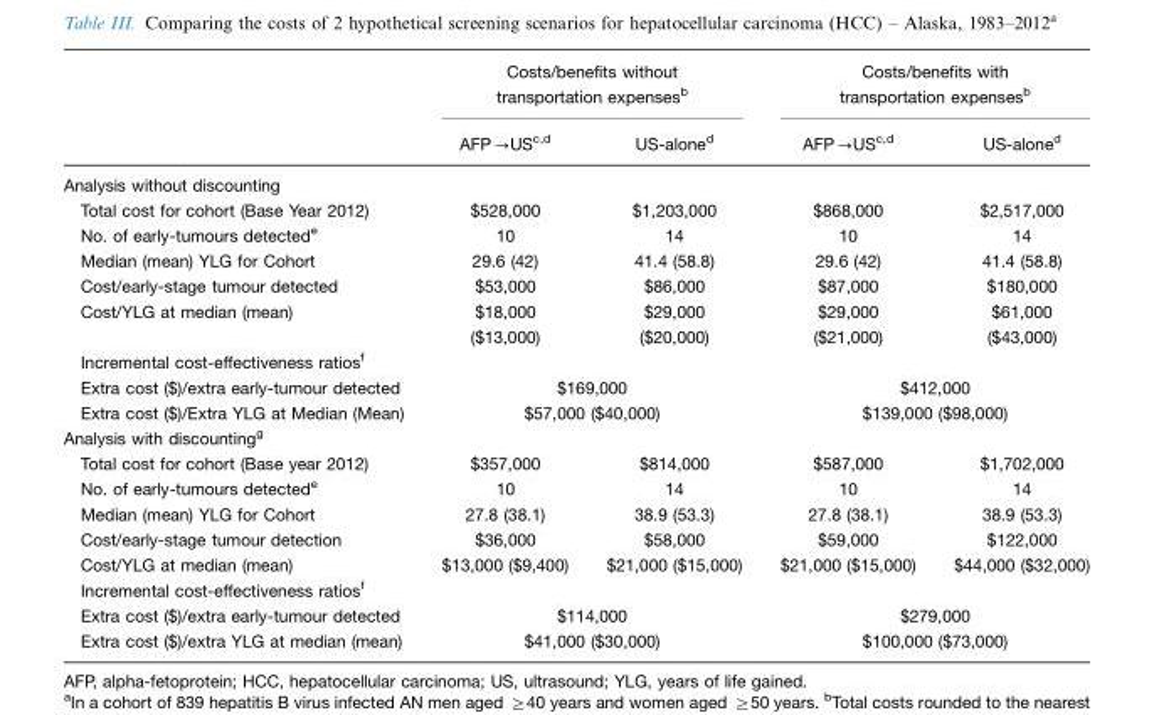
<table><thead><tr><td rowspan="2"></td><td colspan="2">Costs/benefits without transportation expenses<sup>b</sup></td><td colspan="2">Costs/benefits with transportation expenses<sup>b</sup></td></tr><tr><td>AFP→US<sup>c</sup>,<sup>d</sup></td><td>US-alone<sup>d</sup></td><td>AFP→US<sup>c</sup>,<sup>d</sup></td><td>US-alone<sup>d</sup></td></tr></thead><tbody><tr><td colspan="5">Analysis without discounting</td></tr><tr><td>Total cost for cohort (Base Year 2012)</td><td>$528,000</td><td>$1,203,000</td><td>$868,000</td><td>$2,517,000</td></tr><tr><td>No. of early-tumours detected<sup>e</sup></td><td>10</td><td>14</td><td>10</td><td>14</td></tr><tr><td>Median (mean) YLG for Cohort</td><td>29.6 (42)</td><td>41.4 (58.8)</td><td>29.6 (42)</td><td>41.4 (58.8)</td></tr><tr><td>Cost/early-stage tumour detected</td><td>$53,000</td><td>$86,000</td><td>$87,000</td><td>$180,000</td></tr><tr><td>Cost/YLG at median (mean)</td><td>$18,000 ($13,000)</td><td>$29,000 ($20,000)</td><td>$29,000 ($21,000)</td><td>$61,000 ($43,000)</td></tr><tr><td colspan="5">Incremental cost-effectiveness ratios<sup>f</sup></td></tr><tr><td>Extra cost ($)/extra early-tumour detected</td><td colspan="2">$169,000</td><td colspan="2">$412,000</td></tr><tr><td>Extra cost ($)/Extra YLG at Median (Mean)</td><td colspan="2">$57,000 ($40,000)</td><td colspan="2">$139,000 ($98,000)</td></tr><tr><td colspan="5">Analysis with discounting<sup>g</sup></td></tr><tr><td>Total cost for cohort (Base year 2012)</td><td>$357,000</td><td>$814,000</td><td>$587,000</td><td>$1,702,000</td></tr><tr><td>No. of early-tumours detected<sup>e</sup></td><td>10</td><td>14</td><td>10</td><td>14</td></tr><tr><td>Median (mean) YLG for Cohort</td><td>27.8 (38.1)</td><td>38.9 (53.3)</td><td>27.8 (38.1)</td><td>38.9 (53.3)</td></tr><tr><td>Cost/early-stage tumour detection</td><td>$36,000</td><td>$58,000</td><td>$59,000</td><td>$122,000</td></tr><tr><td>Cost/YLG at median (mean)</td><td>$13,000 ($9,400)</td><td>$21,000 ($15,000)</td><td>$21,000 ($15,000)</td><td>$44,000 ($32,000)</td></tr><tr><td colspan="5">Incremental cost-effectiveness ratios<sup>f</sup></td></tr><tr><td>Extra cost ($)/extra early-tumour detected</td><td colspan="2">$114,000</td><td colspan="2">$279,000</td></tr><tr><td>Extra cost ($)/extra YLG at median (mean)</td><td colspan="2">$41,000 ($30,000)</td><td colspan="2">$100,000 ($73,000)</td></tr></tbody></table>